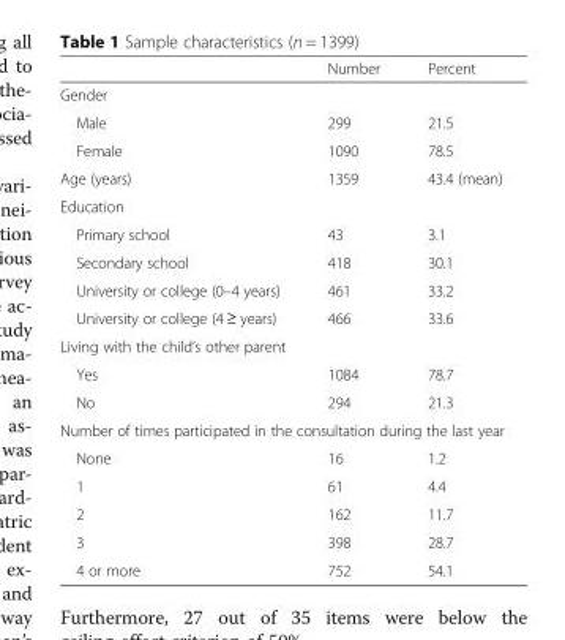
<table><thead><tr><td></td><td>Number</td><td>Percent</td></tr></thead><tbody><tr><td colspan="3">Gender</td></tr><tr><td>Male</td><td>299</td><td>21.5</td></tr><tr><td>Female</td><td>1090</td><td>78.5</td></tr><tr><td>Age (years)</td><td>1359</td><td>43.4 (mean)</td></tr><tr><td colspan="3">Education</td></tr><tr><td>Primary school</td><td>43</td><td>3.1</td></tr><tr><td>Secondary school</td><td>418</td><td>30.1</td></tr><tr><td>University or college (0–4 years)</td><td>461</td><td>33.2</td></tr><tr><td>University or college (4 ≥ years)</td><td>466</td><td>33.6</td></tr><tr><td colspan="3">Living with the child’s other parent</td></tr><tr><td>Yes</td><td>1084</td><td>78.7</td></tr><tr><td>No</td><td>294</td><td>21.3</td></tr><tr><td colspan="3">Number of times participated in the consultation during the last year</td></tr><tr><td>None</td><td>16</td><td>1.2</td></tr><tr><td>1</td><td>61</td><td>4.4</td></tr><tr><td>2</td><td>162</td><td>11.7</td></tr><tr><td>3</td><td>398</td><td>28.7</td></tr><tr><td>4 or more</td><td>752</td><td>54.1</td></tr></tbody></table>